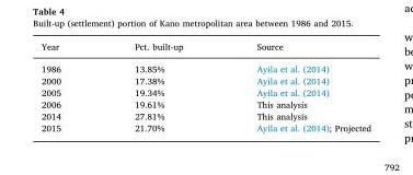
<table><thead><tr><td>Year</td><td>Pct. built-up</td><td>Source</td></tr></thead><tbody><tr><td>1986</td><td>13.85%</td><td>Ayila et al. (2014)</td></tr><tr><td>2000</td><td>17.38%</td><td>Ayila et al. (2014)</td></tr><tr><td>2005</td><td>19.34%</td><td>Ayila et al. (2014)</td></tr><tr><td>2006</td><td>19.61%</td><td>This analysis</td></tr><tr><td>2014</td><td>27.81%</td><td>This analysis</td></tr><tr><td>2015</td><td>21.70%</td><td>Ayila et al. (2014); Projected</td></tr></tbody></table>